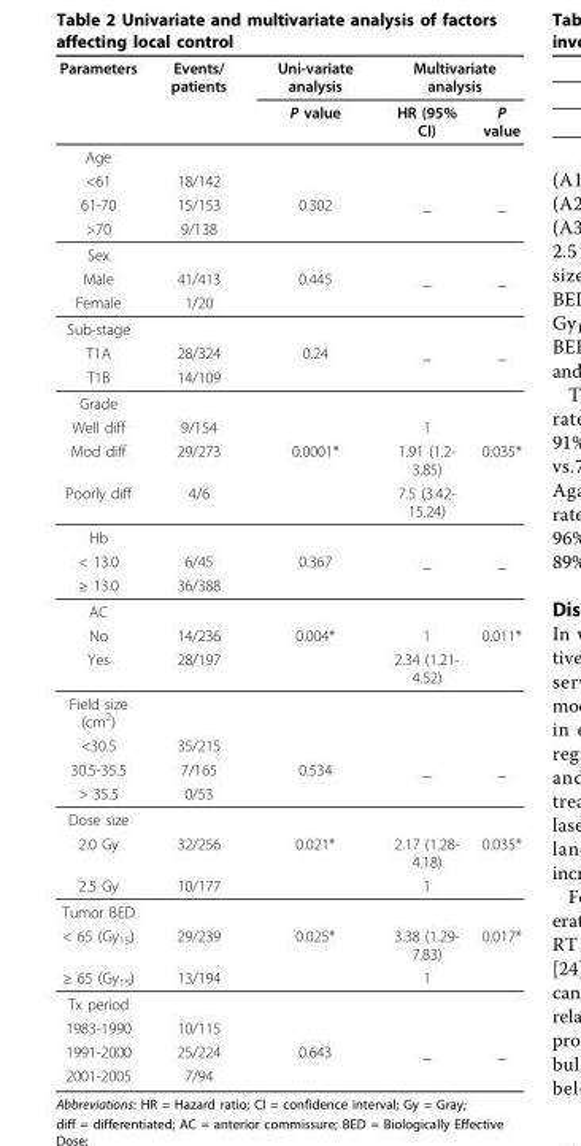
<table><thead><tr><td rowspan="2">Parameters</td><td rowspan="2">Events/ patients</td><td rowspan="2">Uni-variate analysis P value</td><td colspan="2">Multivariate analysis</td></tr><tr><td>HR (95% CI)</td><td>P value</td></tr></thead><tbody><tr><td colspan="5">Age</td></tr><tr><td>&lt;61</td><td>18/142</td><td></td><td></td><td></td></tr><tr><td>61-70</td><td>15/153</td><td>0.302</td><td>_</td><td>_</td></tr><tr><td>&gt;70</td><td>9/138</td><td></td><td></td><td></td></tr><tr><td colspan="5">Sex</td></tr><tr><td>Male</td><td>41/413</td><td>0.445</td><td>_</td><td>_</td></tr><tr><td>Female</td><td>1/20</td><td></td><td></td><td></td></tr><tr><td colspan="5">Sub-stage</td></tr><tr><td>T1A</td><td>28/324</td><td>0.24</td><td>_</td><td>_</td></tr><tr><td>T1B</td><td>14/109</td><td></td><td></td><td></td></tr><tr><td colspan="5">Grade</td></tr><tr><td>Well diff</td><td>9/154</td><td></td><td>1</td><td></td></tr><tr><td>Mod diff</td><td>29/273</td><td>0.0001*</td><td>1.91 (1.2- 3.85)</td><td>0.035*</td></tr><tr><td>Poorly diff</td><td>4/6</td><td></td><td>7.5 (3.42- 15.24)</td><td></td></tr><tr><td colspan="5">Hb</td></tr><tr><td>&lt; 13.0</td><td>6/45</td><td>0.367</td><td>_</td><td>_</td></tr><tr><td>≥ 13.0</td><td>36/388</td><td></td><td></td><td></td></tr><tr><td colspan="5">AC</td></tr><tr><td>No</td><td>14/236</td><td>0.004*</td><td>1</td><td>0.011*</td></tr><tr><td>Yes</td><td>28/197</td><td></td><td>2.34 (1.21- 4.52)</td><td></td></tr><tr><td colspan="5">Field size (cm<sup>2</sup>)</td></tr><tr><td>&lt;30.5</td><td>35/215</td><td></td><td></td><td></td></tr><tr><td>30.5-35.5</td><td>7/165</td><td>0.534</td><td>_</td><td>_</td></tr><tr><td>&gt; 35.5</td><td>0/53</td><td></td><td></td><td></td></tr><tr><td colspan="5">Dose size</td></tr><tr><td>2.0 Gy</td><td>32/256</td><td>0.021*</td><td>2.17 (1.28- 4.18)</td><td>0.035*</td></tr><tr><td>2.5 Gy</td><td>10/177</td><td></td><td>1</td><td></td></tr><tr><td colspan="5">Tumor BED</td></tr><tr><td>&lt; 65 (Gy<sub>15</sub>)</td><td>29/239</td><td>0.025*</td><td>3.38 (1.29- 7.83)</td><td>0.017*</td></tr><tr><td>≥ 65 (Gy<sub>15</sub>)</td><td>13/194</td><td></td><td>1</td><td></td></tr><tr><td colspan="5">Tx period</td></tr><tr><td>1983-1990</td><td>10/115</td><td></td><td></td><td></td></tr><tr><td>1991-2000</td><td>25/224</td><td>0.643</td><td>_</td><td>_</td></tr><tr><td>2001-2005</td><td>7/94</td><td></td><td></td><td></td></tr></tbody></table>